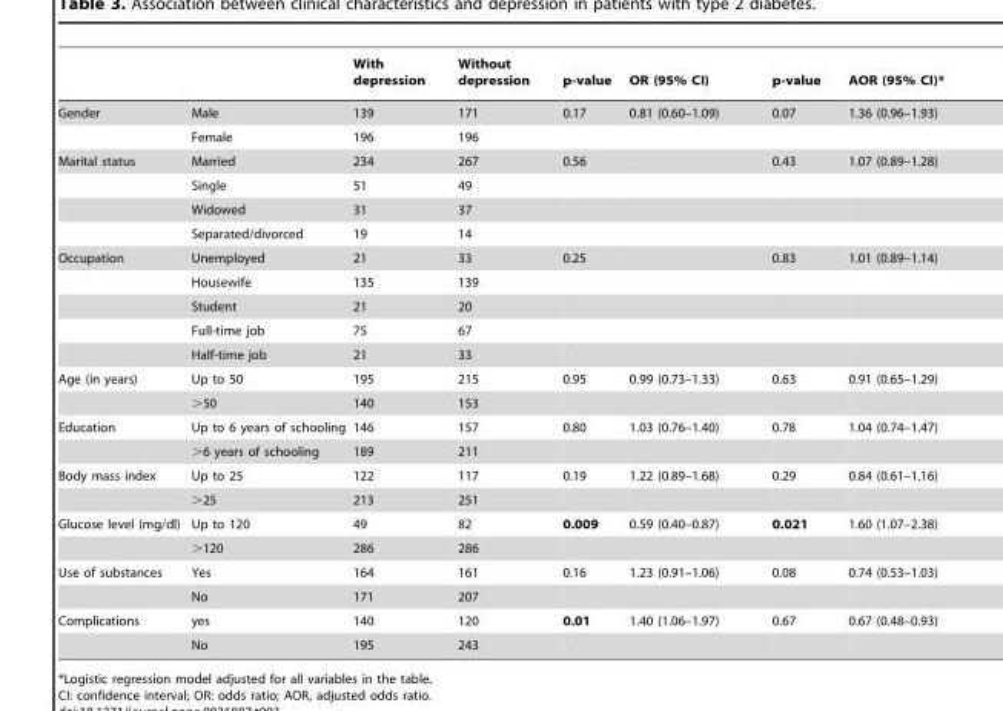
<table><thead><tr><td></td><td></td><td>With depression</td><td>Without depression</td><td>p-value</td><td>OR (95% CI)</td><td>p-value</td><td>AOR (95% CI)*</td></tr></thead><tbody><tr><td rowspan="2">Gender</td><td>Male</td><td>139</td><td>171</td><td>0.17</td><td>0.81 (0.60–1.09)</td><td>0.07</td><td>1.36 (0.96–1.93)</td></tr><tr><td>Female</td><td>196</td><td>196</td><td></td><td></td><td></td><td></td></tr><tr><td rowspan="4">Marital status</td><td>Married</td><td>234</td><td>267</td><td>0.56</td><td></td><td>0.43</td><td>1.07 (0.89–1.28)</td></tr><tr><td>Single</td><td>51</td><td>49</td><td></td><td></td><td></td><td></td></tr><tr><td>Widowed</td><td>31</td><td>37</td><td></td><td></td><td></td><td></td></tr><tr><td>Separated/divorced</td><td>19</td><td>14</td><td></td><td></td><td></td><td></td></tr><tr><td rowspan="5">Occupation</td><td>Unemployed</td><td>21</td><td>33</td><td>0.25</td><td></td><td>0.83</td><td>1.01 (0.89–1.14)</td></tr><tr><td>Housewife</td><td>135</td><td>139</td><td></td><td></td><td></td><td></td></tr><tr><td>Student</td><td>21</td><td>20</td><td></td><td></td><td></td><td></td></tr><tr><td>Full-time job</td><td>75</td><td>67</td><td></td><td></td><td></td><td></td></tr><tr><td>Half-time job</td><td>21</td><td>33</td><td></td><td></td><td></td><td></td></tr><tr><td rowspan="2">Age (in years)</td><td>Up to 50</td><td>195</td><td>215</td><td>0.95</td><td>0.99 (0.73–1.33)</td><td>0.63</td><td>0.91 (0.65–1.29)</td></tr><tr><td>&gt;50</td><td>140</td><td>153</td><td></td><td></td><td></td><td></td></tr><tr><td rowspan="2">Education</td><td>Up to 6 years of schooling</td><td>146</td><td>157</td><td>0.80</td><td>1.03 (0.76–1.40)</td><td>0.78</td><td>1.04 (0.74–1.47)</td></tr><tr><td>&gt;6 years of schooling</td><td>189</td><td>211</td><td></td><td></td><td></td><td></td></tr><tr><td rowspan="2">Body mass index</td><td>Up to 25</td><td>122</td><td>117</td><td>0.19</td><td>1.22 (0.89–1.68)</td><td>0.29</td><td>0.84 (0.61–1.16)</td></tr><tr><td>&gt;25</td><td>213</td><td>251</td><td></td><td></td><td></td><td></td></tr><tr><td rowspan="2">Glucose level (mg/dl)</td><td>Up to 120</td><td>49</td><td>82</td><td>0.009</td><td>0.59 (0.40–0.87)</td><td>0.021</td><td>1.60 (1.07–2.38)</td></tr><tr><td>&gt;120</td><td>286</td><td>286</td><td></td><td></td><td></td><td></td></tr><tr><td rowspan="2">Use of substances</td><td>Yes</td><td>164</td><td>161</td><td>0.16</td><td>1.23 (0.91–1.06)</td><td>0.08</td><td>0.74 (0.53–1.03)</td></tr><tr><td>No</td><td>171</td><td>207</td><td></td><td></td><td></td><td></td></tr><tr><td rowspan="2">Complications</td><td>yes</td><td>140</td><td>120</td><td>0.01</td><td>1.40 (1.06–1.97)</td><td>0.67</td><td>0.67 (0.48–0.93)</td></tr><tr><td>No</td><td>195</td><td>243</td><td></td><td></td><td></td><td></td></tr></tbody></table>